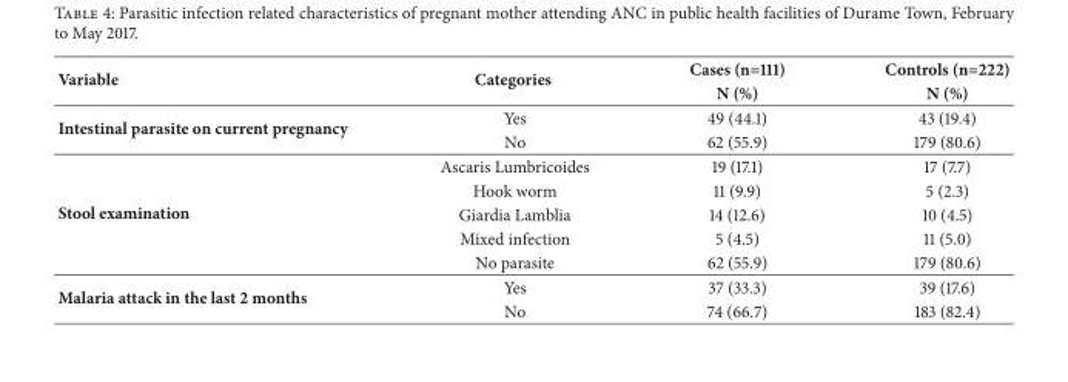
<table><thead><tr><td rowspan="2">Variable</td><td rowspan="2">Categories</td><td rowspan="2">Cases (n=111) N (%)</td><td rowspan="2">Controls (n=222) N (%)</td></tr><tr></tr></thead><tbody><tr><td rowspan="2">Intestinal parasite on current pregnancy</td><td>Yes</td><td>49 (44.1)</td><td>43 (19.4)</td></tr><tr><td>No</td><td>62 (55.9)</td><td>179 (80.6)</td></tr><tr><td rowspan="5">Stool examination</td><td>Ascaris Lumbricoides</td><td>19 (17.1)</td><td>17 (7.7)</td></tr><tr><td>Hook worm</td><td>11 (9.9)</td><td>5 (2.3)</td></tr><tr><td>Giardia Lamblia</td><td>14 (12.6)</td><td>10 (4.5)</td></tr><tr><td>Mixed infection</td><td>5 (4.5)</td><td>11 (5.0)</td></tr><tr><td>No parasite</td><td>62 (55.9)</td><td>179 (80.6)</td></tr><tr><td rowspan="2">Malaria attack in the last 2 months</td><td>Yes</td><td>37 (33.3)</td><td>39 (17.6)</td></tr><tr><td>No</td><td>74 (66.7)</td><td>183 (82.4)</td></tr></tbody></table>